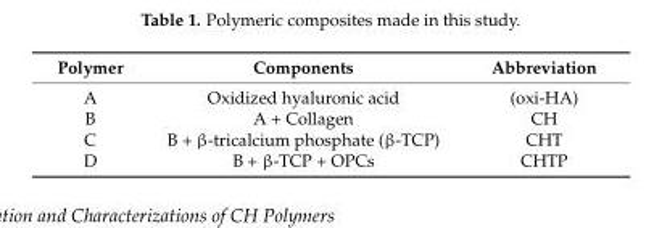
<table><thead><tr><td>Polymer</td><td>Components</td><td>Abbreviation</td></tr></thead><tbody><tr><td>A</td><td>Oxidized hyaluronic acid</td><td>(oxi-HA)</td></tr><tr><td>B</td><td>A + Collagen</td><td>CH</td></tr><tr><td>C</td><td>B + β-tricalcium phosphate (β-TCP)</td><td>CHT</td></tr><tr><td>D</td><td>B + β-TCP + OPCs</td><td>CHTP</td></tr></tbody></table>